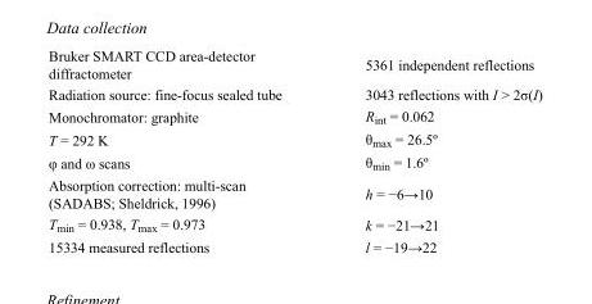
<table><tbody><tr><td>Bruker SMART CCD area-detector diffractometer</td><td>5361 independent reflections</td></tr><tr><td>Radiation source: fine-focus sealed tube</td><td>3043 reflections with I &gt; 2σ(I)</td></tr><tr><td>Monochromator: graphite</td><td>R<sub>int</sub> = 0.062</td></tr><tr><td>T = 292 K</td><td>θ<sub>max</sub> = 26.5º</td></tr><tr><td>φ and ω scans</td><td>θ<sub>min</sub> = 1.6º</td></tr><tr><td>Absorption correction: multi-scan (SADABS; Sheldrick, 1996)</td><td>h = −6→10</td></tr><tr><td>T<sub>min</sub> = 0.938, T<sub>max</sub> = 0.973</td><td>k = −21→21</td></tr><tr><td>15334 measured reflections</td><td>l = −19→22</td></tr></tbody></table>